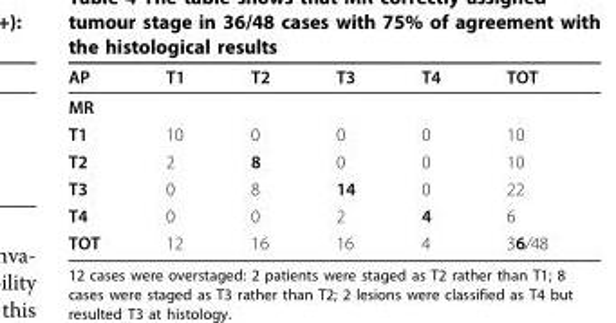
<table><thead><tr><td>AP</td><td>T1</td><td>T2</td><td>T3</td><td>T4</td><td>TOT</td></tr></thead><tbody><tr><td colspan="6">MR</td></tr><tr><td>T1</td><td>10</td><td>0</td><td>0</td><td>0</td><td>10</td></tr><tr><td>T2</td><td>2</td><td>8</td><td>0</td><td>0</td><td>10</td></tr><tr><td>T3</td><td>0</td><td>8</td><td>14</td><td>0</td><td>22</td></tr><tr><td>T4</td><td>0</td><td>0</td><td>2</td><td>4</td><td>6</td></tr><tr><td>TOT</td><td>12</td><td>16</td><td>16</td><td>4</td><td>36/48</td></tr></tbody></table>